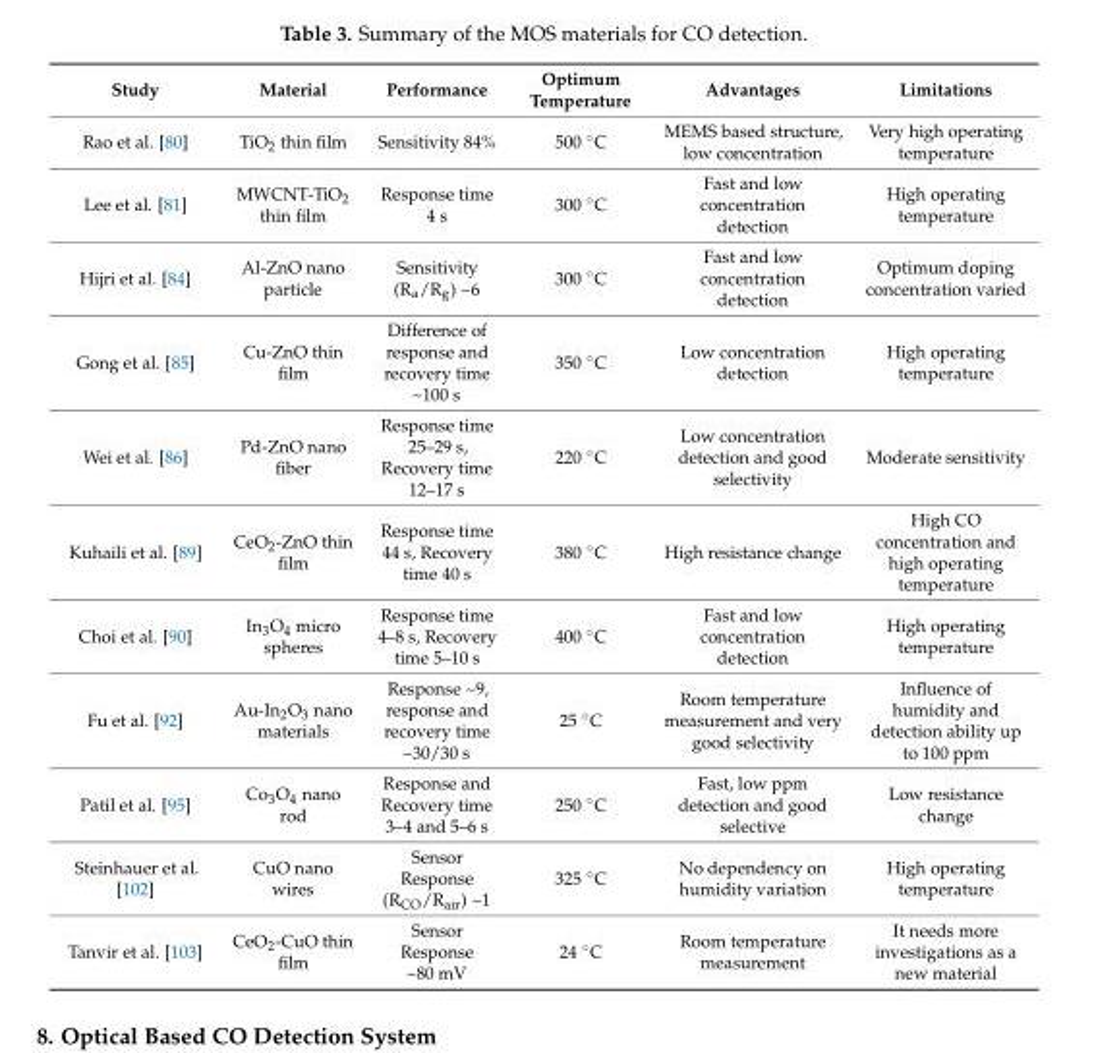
<table><thead><tr><td>Study</td><td>Material</td><td>Performance</td><td>Optimum Temperature</td><td>Advantages</td><td>Limitations</td></tr></thead><tbody><tr><td>Rao et al. [80]</td><td>TiO<sub>2</sub> thin film</td><td>Sensitivity 84%</td><td>500 ◦C</td><td>MEMS based structure, low concentration</td><td>Very high operating temperature</td></tr><tr><td>Lee et al. [81]</td><td>MWCNT-TiO<sub>2</sub> thin film</td><td>Response time 4 s</td><td>300 ◦C</td><td>Fast and low concentration detection</td><td>High operating temperature</td></tr><tr><td>Hijri et al. [84]</td><td>Al-ZnO nano particle</td><td>Sensitivity (R<sub>a</sub>/R<sub>g</sub>) ~6</td><td>300 ◦C</td><td>Fast and low concentration detection</td><td>Optimum doping concentration varied</td></tr><tr><td>Gong et al. [85]</td><td>Cu-ZnO thin film</td><td>Difference of response and recovery time ~100 s</td><td>350 ◦C</td><td>Low concentration detection</td><td>High operating temperature</td></tr><tr><td>Wei et al. [86]</td><td>Pd-ZnO nano fiber</td><td>Response time 25–29 s, Recovery time 12–17 s</td><td>220 ◦C</td><td>Low concentration detection and good selectivity</td><td>Moderate sensitivity</td></tr><tr><td>Kuhaili et al. [89]</td><td>CeO<sub>2</sub>-ZnO thin film</td><td>Response time 44 s, Recovery time 40 s</td><td>380 ◦C</td><td>High resistance change</td><td>High CO concentration and high operating temperature</td></tr><tr><td>Choi et al. [90]</td><td>In<sub>3</sub>O<sub>4</sub> micro spheres</td><td>Response time 4–8 s, Recovery time 5–10 s</td><td>400 ◦C</td><td>Fast and low concentration detection</td><td>High operating temperature</td></tr><tr><td>Fu et al. [92]</td><td>Au-In<sub>2</sub>O<sub>3</sub> nano materials</td><td>Response ~9, response and recovery time ~30/30 s</td><td>25 ◦C</td><td>Room temperature measurement and very good selectivity</td><td>Influence of humidity and detection ability up to 100 ppm</td></tr><tr><td>Patil et al. [95]</td><td>Co<sub>3</sub>O<sub>4</sub> nano rod</td><td>Response and Recovery time 3–4 and 5–6 s</td><td>250 ◦C</td><td>Fast, low ppm detection and good selective</td><td>Low resistance change</td></tr><tr><td>Steinhauer et al. [102]</td><td>CuO nano wires</td><td>Sensor Response (R<sub>CO</sub>/R<sub>air</sub>) ~1</td><td>325 ◦C</td><td>No dependency on humidity variation</td><td>High operating temperature</td></tr><tr><td>Tanvir et al. [103]</td><td>CeO<sub>2</sub>-CuO thin film</td><td>Sensor Response ~80 mV</td><td>24 ◦C</td><td>Room temperature measurement</td><td>It needs more investigations as a new material</td></tr></tbody></table>